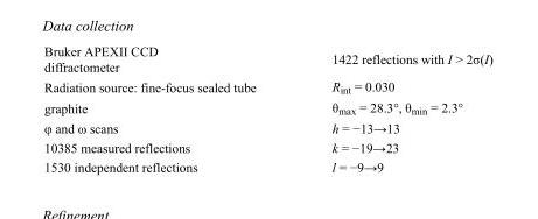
<table><tbody><tr><td>Bruker APEXII CCD diffractometer</td><td>1422 reflections with I &gt; 2σ(I)</td></tr><tr><td>Radiation source: fine-focus sealed tube</td><td>R<sub>int</sub> = 0.030</td></tr><tr><td>graphite</td><td>θ<sub>max</sub> = 28.3°, θ<sub>min</sub> = 2.3°</td></tr><tr><td>φ and ω scans</td><td>h = −13→13</td></tr><tr><td>10385 measured reflections</td><td>k = −19→23</td></tr><tr><td>1530 independent reflections</td><td>l = −9→9</td></tr></tbody></table>